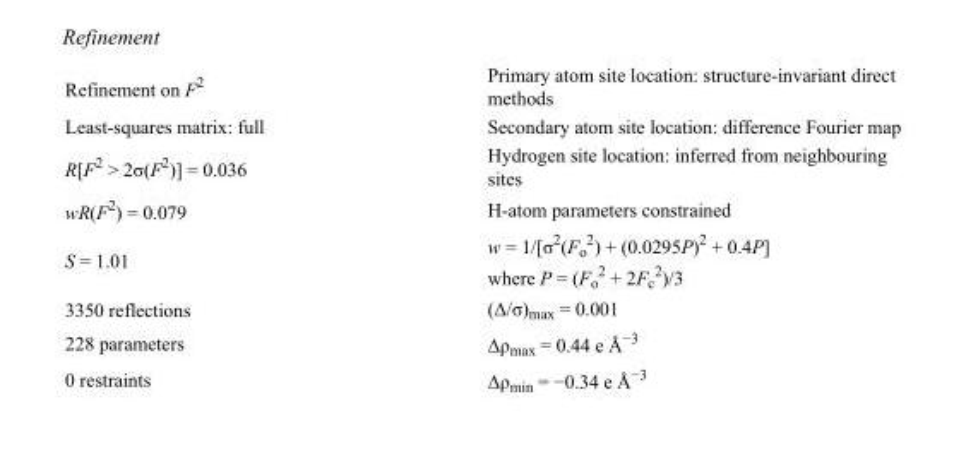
<table><tbody><tr><td>Refinement on F<sup>2</sup></td><td>Primary atom site location: structure-invariant direct methods</td></tr><tr><td>Least-squares matrix: full</td><td>Secondary atom site location: difference Fourier map</td></tr><tr><td>R[F<sup>2</sup> &gt; 2σ(F<sup>2</sup>)] = 0.036</td><td>Hydrogen site location: inferred from neighbouring sites</td></tr><tr><td>wR(F<sup>2</sup>) = 0.079</td><td>H-atom parameters constrained</td></tr><tr><td>S = 1.01</td><td>w = 1/[σ<sup>2</sup>(F<sub>o</sub> <sup>2</sup>) + (0.0295P)<sup>2</sup> + 0.4P] where P = (F<sub>o</sub> <sup>2</sup> + 2F<sub>c</sub> <sup>2</sup>)/3</td></tr><tr><td>3350 reflections</td><td>(Δ/σ)<sub>max</sub> = 0.001</td></tr><tr><td>228 parameters</td><td>Δρ<sub>max</sub> = 0.44 e Å<sup>−3</sup></td></tr><tr><td>0 restraints</td><td>Δρ<sub>min</sub> = −0.34 e Å<sup>−3</sup></td></tr></tbody></table>